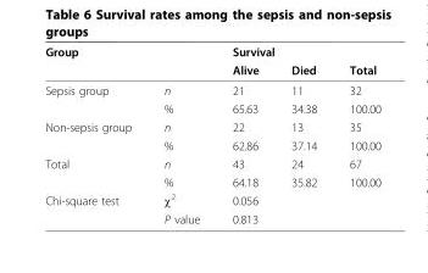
<table><thead><tr><td rowspan="2">Group</td><td rowspan="2"></td><td colspan="3">Survival</td></tr><tr><td>Alive</td><td>Died</td><td>Total</td></tr></thead><tbody><tr><td rowspan="2">Sepsis group</td><td>n</td><td>21</td><td>11</td><td>32</td></tr><tr><td>%</td><td>65.63</td><td>34.38</td><td>100.00</td></tr><tr><td rowspan="2">Non-sepsis group</td><td>n</td><td>22</td><td>13</td><td>35</td></tr><tr><td>%</td><td>62.86</td><td>37.14</td><td>100.00</td></tr><tr><td rowspan="2">Total</td><td>n</td><td>43</td><td>24</td><td>67</td></tr><tr><td>%</td><td>64.18</td><td>35.82</td><td>100.00</td></tr><tr><td rowspan="2">Chi-square test</td><td>χ<sup>2</sup></td><td>0.056</td><td></td><td></td></tr><tr><td>P value</td><td>0.813</td><td></td><td></td></tr></tbody></table>